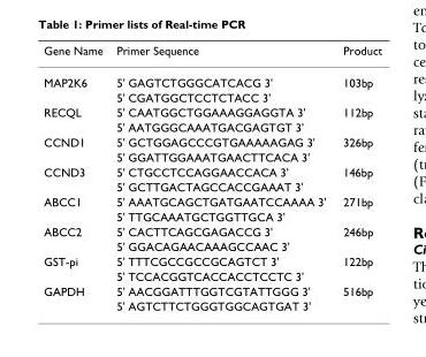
<table><thead><tr><td>Gene Name</td><td>Primer Sequence</td><td>Product</td></tr></thead><tbody><tr><td rowspan="2">MAP2K6</td><td>5&#x27; GAGTCTGGGCATCACG 3&#x27;</td><td>103bp</td></tr><tr><td>5&#x27; CGATGGCTCCTCTACC 3&#x27;</td><td></td></tr><tr><td rowspan="2">RECQL</td><td>5&#x27; CAATGGCTGGAAAGGAGGTA 3&#x27;</td><td>112bp</td></tr><tr><td>5&#x27; AATGGGCAAATGACGAGTGT 3&#x27;</td><td></td></tr><tr><td rowspan="2">CCND1</td><td>5&#x27; GCTGGAGCCCGTGAAAAAGAG 3&#x27;</td><td>326bp</td></tr><tr><td>5&#x27; GGATTGGAAATGAACTTCACA 3&#x27;</td><td></td></tr><tr><td rowspan="2">CCND3</td><td>5&#x27; CTGCCTCCAGGAACCACA 3&#x27;</td><td>146bp</td></tr><tr><td>5&#x27; GCTTGACTAGCCACCGAAAT 3&#x27;</td><td></td></tr><tr><td rowspan="2">ABCC1</td><td>5&#x27; AAATGCAGCTGATGAATCCAAAA 3&#x27;</td><td>271bp</td></tr><tr><td>5&#x27; TTGCAAATGCTGGTTGCA 3&#x27;</td><td></td></tr><tr><td rowspan="2">ABCC2</td><td>5&#x27; CACTTCAGCGAGACCG 3&#x27;</td><td>246bp</td></tr><tr><td>5&#x27; GGACAGAACAAAGCCAAC 3&#x27;</td><td></td></tr><tr><td rowspan="2">GST-pi</td><td>5&#x27; TTTCGCCGCCGCAGTCT 3&#x27;</td><td>122bp</td></tr><tr><td>5&#x27; TCCACGGTCACCACCTCCTC 3&#x27;</td><td></td></tr><tr><td rowspan="2">GAPDH</td><td>5&#x27; AACGGATTTGGTCGTATTGGG 3&#x27;</td><td>516bp</td></tr><tr><td>5&#x27; AGTCTTCTGGGTGGCAGTGAT 3&#x27;</td><td></td></tr></tbody></table>